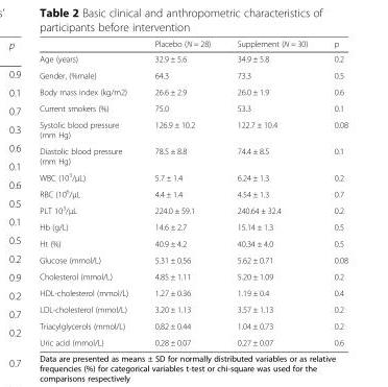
<table><thead><tr><td></td><td>Placebo (N = 28)</td><td>Supplement (N = 30)</td><td>p</td></tr></thead><tbody><tr><td>Age (years)</td><td>32.9 ± 5.6</td><td>34.9 ± 5.8</td><td>0.2</td></tr><tr><td>Gender, (%male)</td><td>64.3</td><td>73.3</td><td>0.5</td></tr><tr><td>Body mass index (kg/m2)</td><td>26.6 ± 2.9</td><td>26.0 ± 1.9</td><td>0.6</td></tr><tr><td>Current smokers (%)</td><td>75.0</td><td>53.3</td><td>0.1</td></tr><tr><td>Systolic blood pressure (mm Hg)</td><td>126.9 ± 10.2</td><td>122.7 ± 10.4</td><td>0.08</td></tr><tr><td>Diastolic blood pressure (mm Hg)</td><td>78.5 ± 8.8</td><td>74.4 ± 8.5</td><td>0.1</td></tr><tr><td>WBC (10<sup>3</sup>/μL)</td><td>5.7 ± 1.4</td><td>6.24 ± 1.3</td><td>0.2</td></tr><tr><td>RBC (10<sup>6</sup>/μL</td><td>4.4 ± 1.4</td><td>4.54 ± 1.3</td><td>0.7</td></tr><tr><td>PLT 10<sup>3</sup>/μL</td><td>224.0 ± 59.1</td><td>240.64 ± 32.4</td><td>0.2</td></tr><tr><td>Hb (g/L)</td><td>14.6 ± 2.7</td><td>15.14 ± 1.3</td><td>0.5</td></tr><tr><td>Ht (%)</td><td>40.9 ± 4.2</td><td>40.34 ± 4.0</td><td>0.5</td></tr><tr><td>Glucose (mmol/L)</td><td>5.31 ± 0.56</td><td>5.62 ± 0.71</td><td>0.08</td></tr><tr><td>Cholesterol (mmol/L)</td><td>4.85 ± 1.11</td><td>5.20 ± 1.09</td><td>0.2</td></tr><tr><td>HDL-cholesterol (mmol/L)</td><td>1.27 ± 0.36</td><td>1.19 ± 0.4</td><td>0.4</td></tr><tr><td>LDL-cholesterol (mmol/L)</td><td>3.20 ± 1.13</td><td>3.57 ± 1.13</td><td>0.2</td></tr><tr><td>Triacylglycerols (mmol/L)</td><td>0.82 ± 0.44</td><td>1.04 ± 0.73</td><td>0.2</td></tr><tr><td>Uric acid (mmol/L)</td><td>0.28 ± 0.07</td><td>0.27 ± 0.07</td><td>0.6</td></tr></tbody></table>